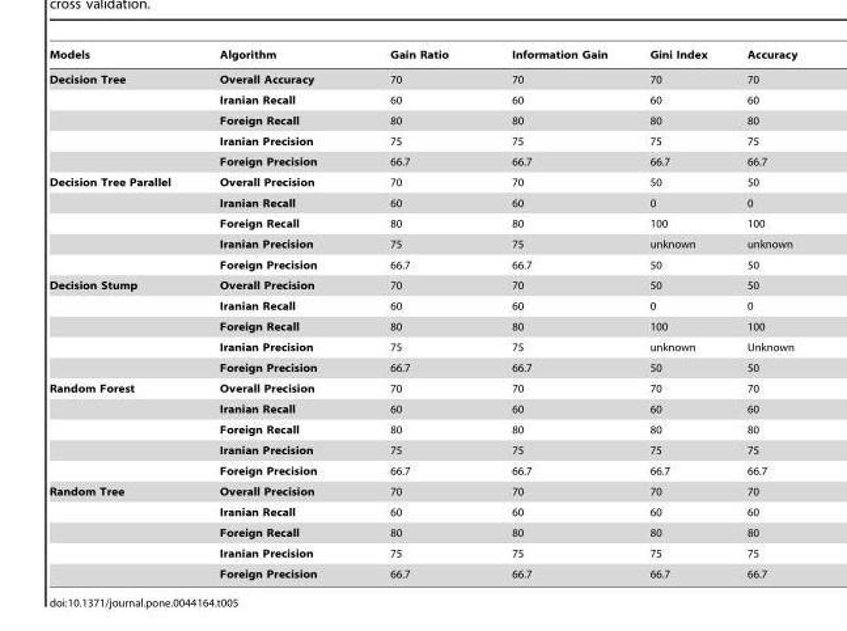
<table><thead><tr><td>Models</td><td>Algorithm</td><td>Gain Ratio</td><td>Information Gain</td><td>Gini Index</td><td>Accuracy</td></tr></thead><tbody><tr><td rowspan="5">Decision Tree</td><td>Overall Accuracy</td><td>70</td><td>70</td><td>70</td><td>70</td></tr><tr><td>Iranian Recall</td><td>60</td><td>60</td><td>60</td><td>60</td></tr><tr><td>Foreign Recall</td><td>80</td><td>80</td><td>80</td><td>80</td></tr><tr><td>Iranian Precision</td><td>75</td><td>75</td><td>75</td><td>75</td></tr><tr><td>Foreign Precision</td><td>66.7</td><td>66.7</td><td>66.7</td><td>66.7</td></tr><tr><td rowspan="5">Decision Tree Parallel</td><td>Overall Precision</td><td>70</td><td>70</td><td>50</td><td>50</td></tr><tr><td>Iranian Recall</td><td>60</td><td>60</td><td>0</td><td>0</td></tr><tr><td>Foreign Recall</td><td>80</td><td>80</td><td>100</td><td>100</td></tr><tr><td>Iranian Precision</td><td>75</td><td>75</td><td>unknown</td><td>unknown</td></tr><tr><td>Foreign Precision</td><td>66.7</td><td>66.7</td><td>50</td><td>50</td></tr><tr><td rowspan="5">Decision Stump</td><td>Overall Precision</td><td>70</td><td>70</td><td>50</td><td>50</td></tr><tr><td>Iranian Recall</td><td>60</td><td>60</td><td>0</td><td>0</td></tr><tr><td>Foreign Recall</td><td>80</td><td>80</td><td>100</td><td>100</td></tr><tr><td>Iranian Precision</td><td>75</td><td>75</td><td>unknown</td><td>Unknown</td></tr><tr><td>Foreign Precision</td><td>66.7</td><td>66.7</td><td>50</td><td>50</td></tr><tr><td rowspan="5">Random Forest</td><td>Overall Precision</td><td>70</td><td>70</td><td>70</td><td>70</td></tr><tr><td>Iranian Recall</td><td>60</td><td>60</td><td>60</td><td>60</td></tr><tr><td>Foreign Recall</td><td>80</td><td>80</td><td>80</td><td>80</td></tr><tr><td>Iranian Precision</td><td>75</td><td>75</td><td>75</td><td>75</td></tr><tr><td>Foreign Precision</td><td>66.7</td><td>66.7</td><td>66.7</td><td>66.7</td></tr><tr><td rowspan="5">Random Tree</td><td>Overall Precision</td><td>70</td><td>70</td><td>70</td><td>70</td></tr><tr><td>Iranian Recall</td><td>60</td><td>60</td><td>60</td><td>60</td></tr><tr><td>Foreign Recall</td><td>80</td><td>80</td><td>80</td><td>80</td></tr><tr><td>Iranian Precision</td><td>75</td><td>75</td><td>75</td><td>75</td></tr><tr><td>Foreign Precision</td><td>66.7</td><td>66.7</td><td>66.7</td><td>66.7</td></tr></tbody></table>